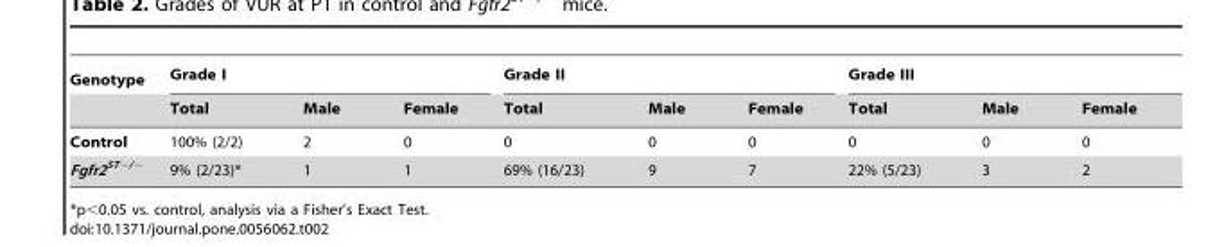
<table><thead><tr><td rowspan="2">Genotype</td><td colspan="3">Grade I</td><td colspan="3">Grade II</td><td colspan="3">Grade III</td></tr><tr><td>Total</td><td>Male</td><td>Female</td><td>Total</td><td>Male</td><td>Female</td><td>Total</td><td>Male</td><td>Female</td></tr></thead><tbody><tr><td>Control</td><td>100% (2/2)</td><td>2</td><td>0</td><td>0</td><td>0</td><td>0</td><td>0</td><td>0</td><td>0</td></tr><tr><td>Fgfr2<sup>ST−/−</sup></td><td>9% (2/23)*</td><td>1</td><td>1</td><td>69% (16/23)</td><td>9</td><td>7</td><td>22% (5/23)</td><td>3</td><td>2</td></tr></tbody></table>